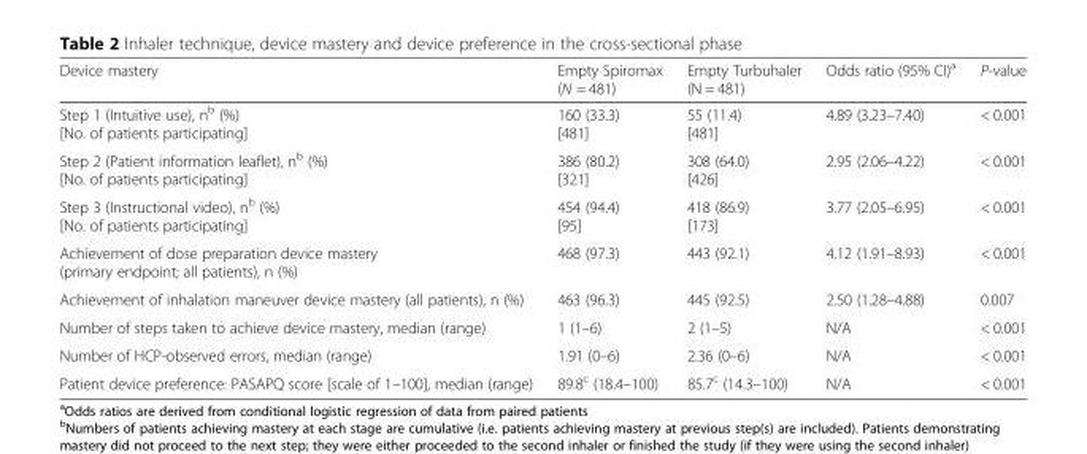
<table><thead><tr><td>Device mastery</td><td>Empty Spiromax (N = 481)</td><td>Empty Turbuhaler (N = 481)</td><td>Odds ratio (95% CI)<sup>a</sup></td><td>P-value</td></tr></thead><tbody><tr><td>Step 1 (Intuitive use), n<sup>b</sup> (%) [No. of patients participating]</td><td>160 (33.3) [481]</td><td>55 (11.4) [481]</td><td>4.89 (3.23–7.40)</td><td>&lt; 0.001</td></tr><tr><td>Step 2 (Patient information leaflet), n<sup>b</sup> (%) [No. of patients participating]</td><td>386 (80.2) [321]</td><td>308 (64.0) [426]</td><td>2.95 (2.06–4.22)</td><td>&lt; 0.001</td></tr><tr><td>Step 3 (Instructional video), n<sup>b</sup> (%) [No. of patients participating]</td><td>454 (94.4) [95]</td><td>418 (86.9) [173]</td><td>3.77 (2.05–6.95)</td><td>&lt; 0.001</td></tr><tr><td>Achievement of dose preparation device mastery (primary endpoint; all patients), n (%)</td><td>468 (97.3)</td><td>443 (92.1)</td><td>4.12 (1.91–8.93)</td><td>&lt; 0.001</td></tr><tr><td>Achievement of inhalation maneuver device mastery (all patients), n (%)</td><td>463 (96.3)</td><td>445 (92.5)</td><td>2.50 (1.28–4.88)</td><td>0.007</td></tr><tr><td>Number of steps taken to achieve device mastery, median (range)</td><td>1 (1–6)</td><td>2 (1–5)</td><td>N/A</td><td>&lt; 0.001</td></tr><tr><td>Number of HCP-observed errors, median (range)</td><td>1.91 (0–6)</td><td>2.36 (0–6)</td><td>N/A</td><td>&lt; 0.001</td></tr><tr><td>Patient device preference: PASAPQ score [scale of 1–100], median (range)</td><td>89.8<sup>c</sup> (18.4–100)</td><td>85.7<sup>c</sup> (14.3–100)</td><td>N/A</td><td>&lt; 0.001</td></tr></tbody></table>